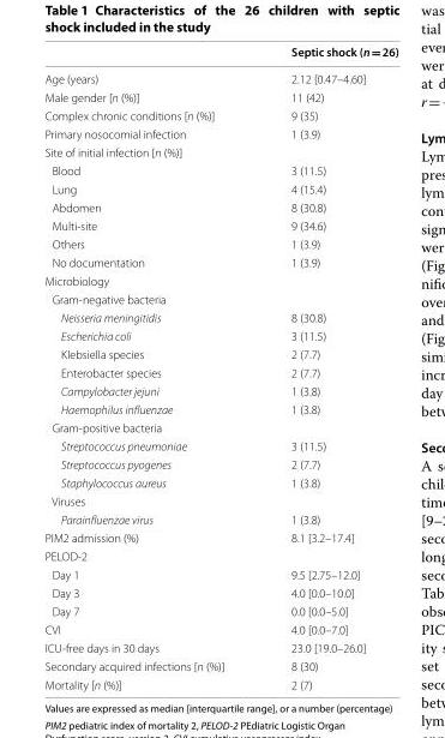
<table><thead><tr><td></td><td>Septic shock (n = 26)</td></tr></thead><tbody><tr><td>Age (years)</td><td>2.12 [0.47–4.60]</td></tr><tr><td>Male gender [n (%)]</td><td>11 (42)</td></tr><tr><td>Complex chronic conditions [n (%)]</td><td>9 (35)</td></tr><tr><td>Primary nosocomial infection</td><td>1 (3.9)</td></tr><tr><td colspan="2">Site of initial infection [n (%)]</td></tr><tr><td>Blood</td><td>3 (11.5)</td></tr><tr><td>Lung</td><td>4 (15.4)</td></tr><tr><td>Abdomen</td><td>8 (30.8)</td></tr><tr><td>Multi‑site</td><td>9 (34.6)</td></tr><tr><td>Others</td><td>1 (3.9)</td></tr><tr><td>No documentation</td><td>1 (3.9)</td></tr><tr><td colspan="2">Microbiology</td></tr><tr><td colspan="2">Gram‑negative bacteria</td></tr><tr><td>Neisseria meningitidis</td><td>8 (30.8)</td></tr><tr><td>Escherichia coli</td><td>3 (11.5)</td></tr><tr><td>Klebsiella species</td><td>2 (7.7)</td></tr><tr><td>Enterobacter species</td><td>2 (7.7)</td></tr><tr><td>Campylobacter jejuni</td><td>1 (3.8)</td></tr><tr><td>Haemophilus influenzae</td><td>1 (3.8)</td></tr><tr><td colspan="2">Gram‑positive bacteria</td></tr><tr><td>Streptococcus pneumoniae</td><td>3 (11.5)</td></tr><tr><td>Streptococcus pyogenes</td><td>2 (7.7)</td></tr><tr><td>Staphylococcus aureus</td><td>1 (3.8)</td></tr><tr><td colspan="2">Viruses</td></tr><tr><td>Parainfluenzae virus</td><td>1 (3.8)</td></tr><tr><td>PIM2 admission (%)</td><td>8.1 [3.2–17.4]</td></tr><tr><td colspan="2">PELOD‑2</td></tr><tr><td>Day 1</td><td>9.5 [2.75–12.0]</td></tr><tr><td>Day 3</td><td>4.0 [0.0–10.0]</td></tr><tr><td>Day 7</td><td>0.0 [0.0–5.0]</td></tr><tr><td>CVI</td><td>4.0 [0.0–7.0]</td></tr><tr><td>ICU‑free days in 30 days</td><td>23.0 [19.0–26.0]</td></tr><tr><td>Secondary acquired infections [n (%)]</td><td>8 (30)</td></tr><tr><td>Mortality [n (%)]</td><td>2 (7)</td></tr></tbody></table>